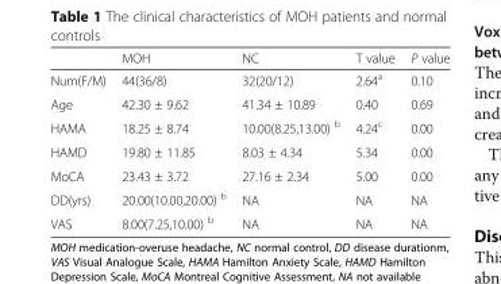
<table><thead><tr><td></td><td>MOH</td><td>NC</td><td>T value</td><td>P value</td></tr></thead><tbody><tr><td>Num(F/M)</td><td>44(36/8)</td><td>32(20/12)</td><td>2.64<sup>a</sup></td><td>0.10</td></tr><tr><td>Age</td><td>42.30 ± 9.62</td><td>41.34 ± 10.89</td><td>0.40</td><td>0.69</td></tr><tr><td>HAMA</td><td>18.25 ± 8.74</td><td>10.00(8.25,13.00) <sup>b</sup></td><td>4.24<sup>c</sup></td><td>0.00</td></tr><tr><td>HAMD</td><td>19.80 ± 11.85</td><td>8.03 ± 4.34</td><td>5.34</td><td>0.00</td></tr><tr><td>MoCA</td><td>23.43 ± 3.72</td><td>27.16 ± 2.34</td><td>5.00</td><td>0.00</td></tr><tr><td>DD(yrs)</td><td>20.00(10.00,20.00) <sup>b</sup></td><td>NA</td><td>NA</td><td>NA</td></tr><tr><td>VAS</td><td>8.00(7.25,10.00) <sup>b</sup></td><td>NA</td><td>NA</td><td>NA</td></tr></tbody></table>